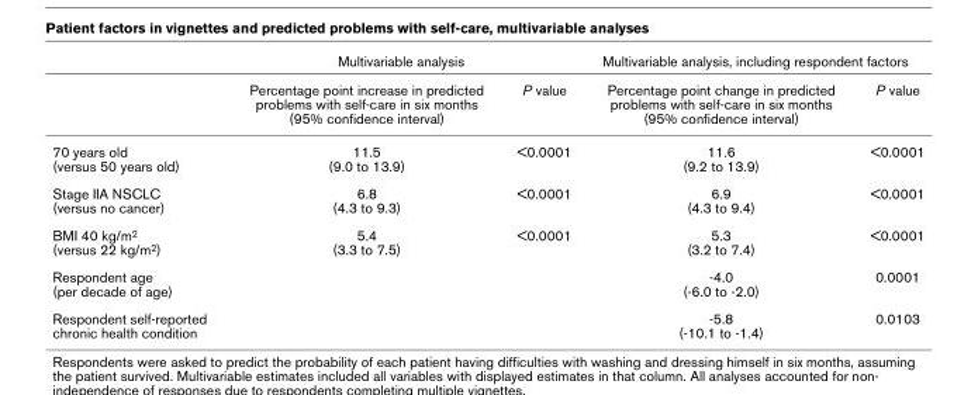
<table><thead><tr><td rowspan="2"></td><td colspan="2">Multivariable analysis</td><td colspan="2">Multivariable analysis, including respondent factors</td></tr><tr><td>Percentage point increase in predicted problems with self-care in six months (95% confidence interval)</td><td>P value</td><td>Percentage point change in predicted problems with self-care in six months (95% confidence interval)</td><td>P value</td></tr></thead><tbody><tr><td>70 years old (versus 50 years old)</td><td>11.5 (9.0 to 13.9)</td><td>&lt;0.0001</td><td>11.6 (9.2 to 13.9)</td><td>&lt;0.0001</td></tr><tr><td>Stage IIA NSCLC (versus no cancer)</td><td>6.8 (4.3 to 9.3)</td><td>&lt;0.0001</td><td>6.9 (4.3 to 9.4)</td><td>&lt;0.0001</td></tr><tr><td>BMI 40 kg/m<sup>2</sup> (versus 22 kg/m<sup>2</sup>)</td><td>5.4 (3.3 to 7.5)</td><td>&lt;0.0001</td><td>5.3 (3.2 to 7.4)</td><td>&lt;0.0001</td></tr><tr><td>Respondent age (per decade of age)</td><td></td><td></td><td>-4.0 (-6.0 to -2.0)</td><td>0.0001</td></tr><tr><td>Respondent self-reported chronic health condition</td><td></td><td></td><td>-5.8 (-10.1 to -1.4)</td><td>0.0103</td></tr></tbody></table>